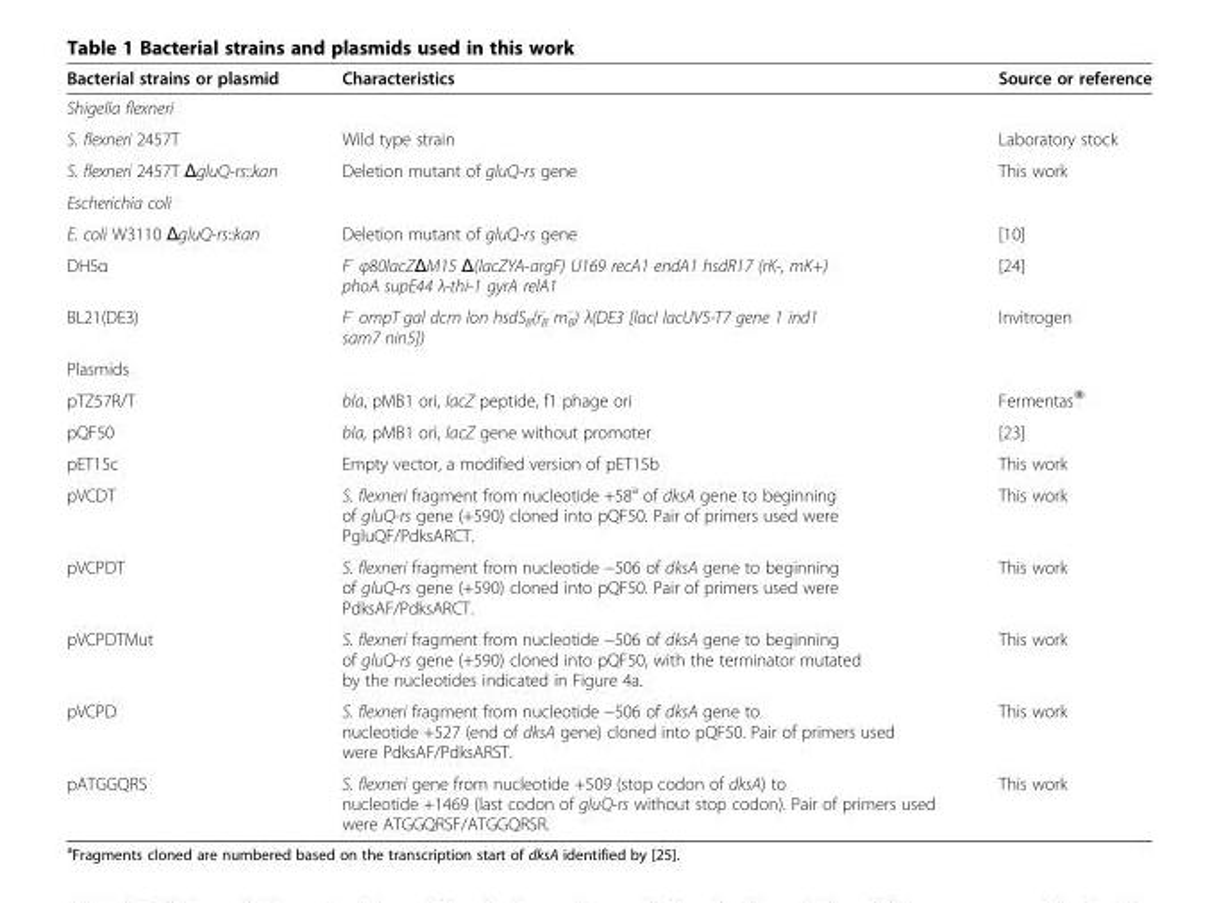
<table><thead><tr><td>Bacterial strains or plasmid</td><td>Characteristics</td><td>Source or reference</td></tr></thead><tbody><tr><td colspan="3">Shigella flexneri</td></tr><tr><td>S. flexneri 2457T</td><td>Wild type strain</td><td>Laboratory stock</td></tr><tr><td>S. flexneri 2457T ΔgluQ-rs::kan</td><td>Deletion mutant of gluQ-rs gene</td><td>This work</td></tr><tr><td colspan="3">Escherichia coli</td></tr><tr><td>E. coli W3110 ΔgluQ-rs::kan</td><td>Deletion mutant of gluQ-rs gene</td><td>[10]</td></tr><tr><td>DH5α</td><td>F<sup>-</sup> φ80lacZΔM15 Δ(lacZYA-argF) U169 recA1 endA1 hsdR17 (rK-, mK+) phoA supE44 λ-thi-1 gyrA relA1</td><td>[24]</td></tr><tr><td>BL21(DE3)</td><td>F<sup>-</sup> ompT gal dcm lon hsdS<sub>B</sub>(r<sub>B</sub> <sup>-</sup> m<sub>B</sub> <sup>-</sup>) λ(DE3 [lacI lacUV5-T7 gene 1 ind1 sam7 nin5])</td><td>Invitrogen</td></tr><tr><td colspan="3">Plasmids</td></tr><tr><td>pTZ57R/T</td><td>bla, pMB1 ori, lacZ peptide, f1 phage ori</td><td>Fermentas®</td></tr><tr><td>pQF50</td><td>bla, pMB1 ori, lacZ gene without promoter</td><td>[23]</td></tr><tr><td>pET15c</td><td>Empty vector, a modified version of pET15b</td><td>This work</td></tr><tr><td>pVCDT</td><td>S. flexneri fragment from nucleotide +58<sup>a</sup> of dksA gene to beginning of gluQ-rs gene (+590) cloned into pQF50. Pair of primers used were PgluQF/PdksARCT.</td><td>This work</td></tr><tr><td>pVCPDT</td><td>S. flexneri fragment from nucleotide −506 of dksA gene to beginning of gluQ-rs gene (+590) cloned into pQF50. Pair of primers used were PdksAF/PdksARCT.</td><td>This work</td></tr><tr><td>pVCPDTMut</td><td>S. flexneri fragment from nucleotide −506 of dksA gene to beginning of gluQ-rs gene (+590) cloned into pQF50, with the terminator mutated by the nucleotides indicated in Figure 4a.</td><td>This work</td></tr><tr><td>pVCPD</td><td>S. flexneri fragment from nucleotide −506 of dksA gene to nucleotide +527 (end of dksA gene) cloned into pQF50. Pair of primers used were PdksAF/PdksARST.</td><td>This work</td></tr><tr><td>pATGGQRS</td><td>S. flexneri gene from nucleotide +509 (stop codon of dksA) to nucleotide +1469 (last codon of gluQ-rs without stop codon). Pair of primers used were ATGGQRSF/ATGGQRSR.</td><td>This work</td></tr></tbody></table>